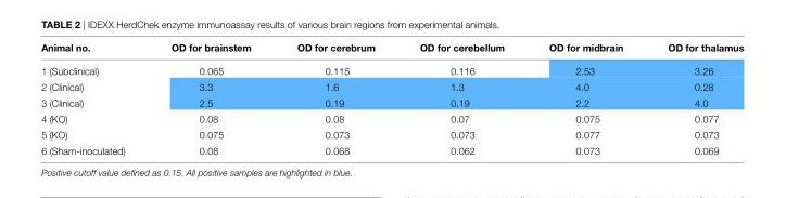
<table><thead><tr><td>animal no.</td><td>OD for brainstem</td><td>OD for cerebrum</td><td>OD for cerebellum</td><td>OD for midbrain</td><td>OD for thalamus</td></tr></thead><tbody><tr><td>1 (Subclinical)</td><td>0.065</td><td>0.115</td><td>0.116</td><td>2.53</td><td>3.26</td></tr><tr><td>2 (Clinical)</td><td>3.3</td><td>1.6</td><td>1.3</td><td>4.0</td><td>0.28</td></tr><tr><td>3 (Clinical)</td><td>2.5</td><td>0.19</td><td>0.19</td><td>2.2</td><td>4.0</td></tr><tr><td>4 (KO)</td><td>0.08</td><td>0.08</td><td>0.07</td><td>0.075</td><td>0.077</td></tr><tr><td>5 (KO)</td><td>0.075</td><td>0.073</td><td>0.073</td><td>0.077</td><td>0.073</td></tr><tr><td>6 (Sham-inoculated)</td><td>0.08</td><td>0.068</td><td>0.062</td><td>0.073</td><td>0.069</td></tr></tbody></table>